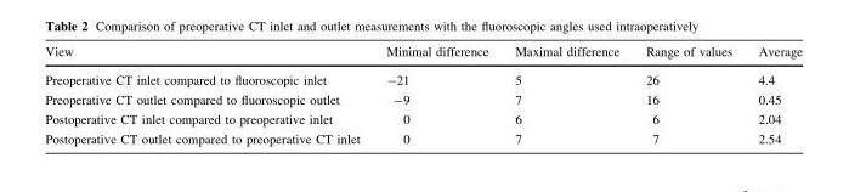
<table><thead><tr><td>View</td><td>Minimal difference</td><td>Maximal difference</td><td>Range of values</td><td>Average</td></tr></thead><tbody><tr><td>Preoperative CT inlet compared to fluoroscopic inlet</td><td>-21</td><td>5</td><td>26</td><td>4.4</td></tr><tr><td>Preoperative CT outlet compared to fluoroscopic outlet</td><td>-9</td><td>7</td><td>16</td><td>0.45</td></tr><tr><td>Postoperative CT inlet compared to preoperative inlet</td><td>0</td><td>6</td><td>6</td><td>2.04</td></tr><tr><td>Postoperative CT outlet compared to preoperative CT inlet</td><td>0</td><td>7</td><td>7</td><td>2.54</td></tr></tbody></table>